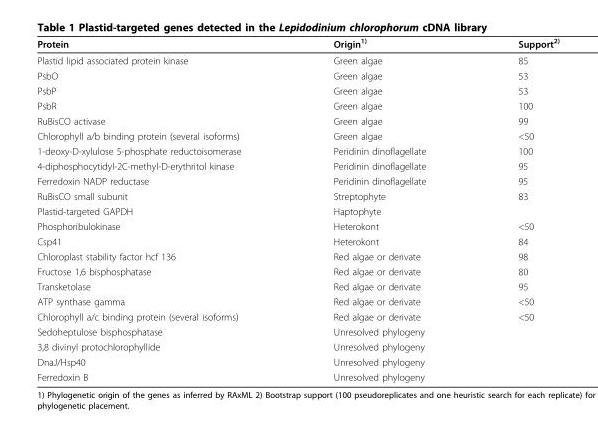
<table><thead><tr><td>Protein</td><td>Origin<sup>1)</sup></td><td>Support<sup>2)</sup></td></tr></thead><tbody><tr><td>Plastid lipid associated protein kinase</td><td>Green algae</td><td>85</td></tr><tr><td>PsbO</td><td>Green algae</td><td>53</td></tr><tr><td>PsbP</td><td>Green algae</td><td>53</td></tr><tr><td>PsbR</td><td>Green algae</td><td>100</td></tr><tr><td>RuBisCO activase</td><td>Green algae</td><td>99</td></tr><tr><td>Chlorophyll a/b binding protein (several isoforms)</td><td>Green algae</td><td>&lt;50</td></tr><tr><td>1-deoxy-D-xylulose 5-phosphate reductoisomerase</td><td>Peridinin dinoflagellate</td><td>100</td></tr><tr><td>4-diphosphocytidyl-2C-methyl-D-erythritol kinase</td><td>Peridinin dinoflagellate</td><td>95</td></tr><tr><td>Ferredoxin NADP reductase</td><td>Peridinin dinoflagellate</td><td>95</td></tr><tr><td>RuBisCO small subunit</td><td>Streptophyte</td><td>83</td></tr><tr><td>Plastid-targeted GAPDH</td><td>Haptophyte</td><td></td></tr><tr><td>Phosphoribulokinase</td><td>Heterokont</td><td>&lt;50</td></tr><tr><td>Csp41</td><td>Heterokont</td><td>84</td></tr><tr><td>Chloroplast stability factor hcf 136</td><td>Red algae or derivate</td><td>98</td></tr><tr><td>Fructose 1,6 bisphosphatase</td><td>Red algae or derivate</td><td>80</td></tr><tr><td>Transketolase</td><td>Red algae or derivate</td><td>95</td></tr><tr><td>ATP synthase gamma</td><td>Red algae or derivate</td><td>&lt;50</td></tr><tr><td>Chlorophyll a/c binding protein (several isoforms)</td><td>Red algae or derivate</td><td>&lt;50</td></tr><tr><td>Sedoheptulose bisphosphatase</td><td>Unresolved phylogeny</td><td></td></tr><tr><td>3,8 divinyl protochlorophyllide</td><td>Unresolved phylogeny</td><td></td></tr><tr><td>DnaJ/Hsp40</td><td>Unresolved phylogeny</td><td></td></tr><tr><td>Ferredoxin B</td><td>Unresolved phylogeny</td><td></td></tr></tbody></table>